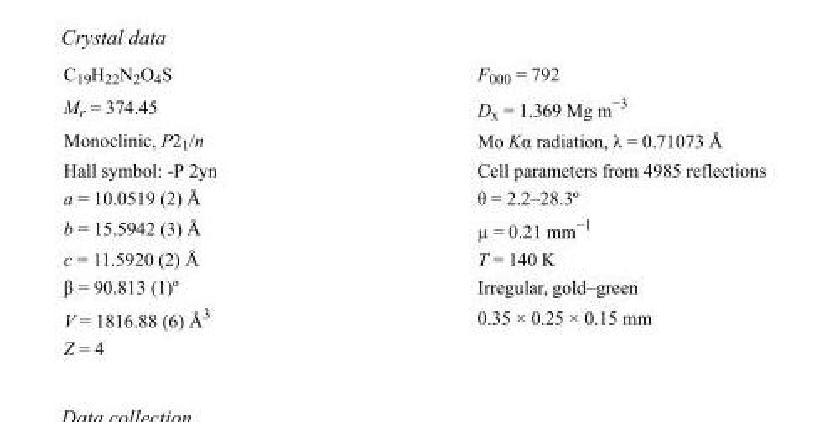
<table><tbody><tr><td>C<sub>19</sub>H<sub>22</sub>N<sub>2</sub>O<sub>4</sub>S</td><td>F000 = 792</td></tr><tr><td>M<sub>r</sub> = 374.45</td><td>D<sub>x</sub> = 1.369 Mg m<sup>−3</sup></td></tr><tr><td>Monoclinic, P2<sub>1</sub>/n</td><td>Mo Kα radiation, λ = 0.71073 Å</td></tr><tr><td>Hall symbol: -P 2yn</td><td>Cell parameters from 4985 reflections</td></tr><tr><td>a = 10.0519 (2) Å</td><td>θ = 2.2–28.3º</td></tr><tr><td>b = 15.5942 (3) Å</td><td>µ = 0.21 mm<sup>−1</sup></td></tr><tr><td>c = 11.5920 (2) Å</td><td>T = 140 K</td></tr><tr><td>β = 90.813 (1)º</td><td>Irregular, gold–green</td></tr><tr><td>V = 1816.88 (6) Å<sup>3</sup></td><td>0.35 × 0.25 × 0.15 mm</td></tr><tr><td>Z = 4</td><td></td></tr></tbody></table>